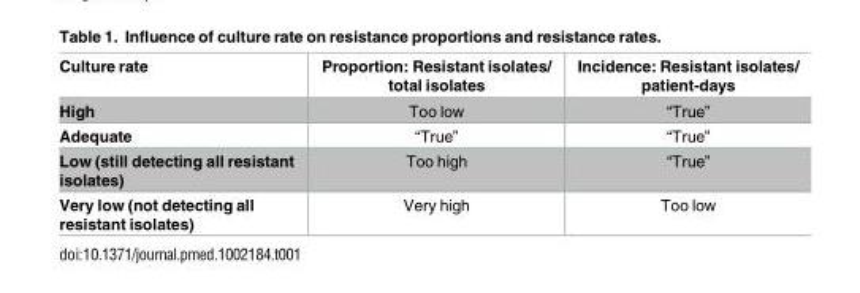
<table><thead><tr><td>Culture rate</td><td>Proportion: Resistant isolates/ total isolates</td><td>Incidence: Resistant isolates/ patient-days</td></tr></thead><tbody><tr><td>High</td><td>Too low</td><td>“True”</td></tr><tr><td>Adequate</td><td>“True”</td><td>“True”</td></tr><tr><td>Low (still detecting all resistant isolates)</td><td>Too high</td><td>“True”</td></tr><tr><td>Very low (not detecting all resistant isolates)</td><td>Very high</td><td>Too low</td></tr></tbody></table>